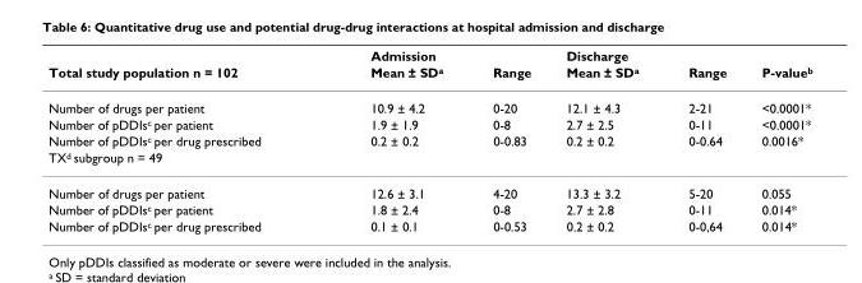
<table><thead><tr><td rowspan="2">Total study population n = 102</td><td colspan="2">Admission</td><td colspan="2">Discharge</td><td rowspan="2">P-value<sup>b</sup></td></tr><tr><td>Mean ± SD<sup>a</sup></td><td>Range</td><td>Mean ± SD<sup>a</sup></td><td>Range</td></tr></thead><tbody><tr><td>Number of drugs per patient</td><td>10.9 ± 4.2</td><td>0-20</td><td>12.1 ± 4.3</td><td>2-21</td><td>&lt;0.0001*</td></tr><tr><td>Number of pDDIs<sup>c</sup> per patient</td><td>1.9 ± 1.9</td><td>0-8</td><td>2.7 ± 2.5</td><td>0-11</td><td>&lt;0.0001*</td></tr><tr><td>Number of pDDIs<sup>c</sup> per drug prescribed</td><td>0.2 ± 0.2</td><td>0-0.83</td><td>0.2 ± 0.2</td><td>0-0.64</td><td>0.0016*</td></tr><tr><td colspan="6">TX<sup>d</sup> subgroup n = 49</td></tr><tr><td>Number of drugs per patient</td><td>12.6 ± 3.1</td><td>4-20</td><td>13.3 ± 3.2</td><td>5-20</td><td>0.055</td></tr><tr><td>Number of pDDIs<sup>c</sup> per patient</td><td>1.8 ± 2.4</td><td>0-8</td><td>2.7 ± 2.8</td><td>0-11</td><td>0.014*</td></tr><tr><td>Number of pDDIs<sup>c</sup> per drug prescribed</td><td>0.1 ± 0.1</td><td>0-0.53</td><td>0.2 ± 0.2</td><td>0-0,64</td><td>0.014*</td></tr></tbody></table>